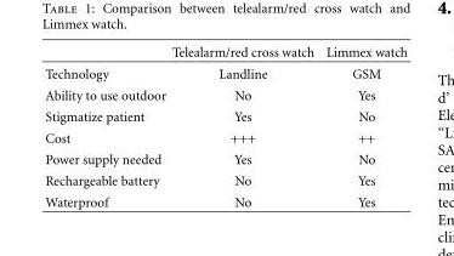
<table><thead><tr><td></td><td>Telealarm/red cross watch</td><td>Limmex watch</td></tr></thead><tbody><tr><td>Technology</td><td>Landline</td><td>GSM</td></tr><tr><td>Ability to use outdoor</td><td>No</td><td>Yes</td></tr><tr><td>Stigmatize patient</td><td>Yes</td><td>No</td></tr><tr><td>Cost</td><td>+++</td><td>++</td></tr><tr><td>Power supply needed</td><td>Yes</td><td>No</td></tr><tr><td>Rechargeable battery</td><td>No</td><td>Yes</td></tr><tr><td>Waterproof</td><td>No</td><td>Yes</td></tr></tbody></table>